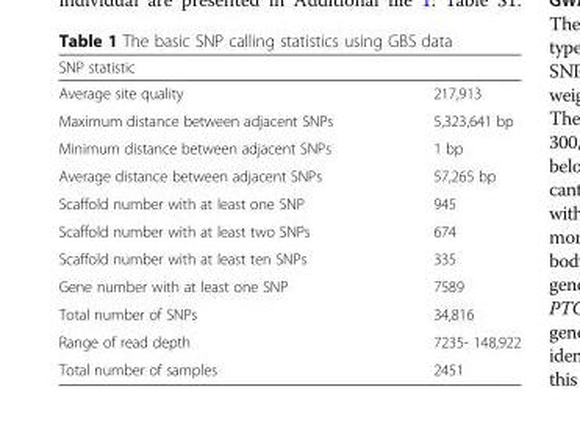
<table><thead><tr><td>SNP statistic</td><td></td></tr></thead><tbody><tr><td>Average site quality</td><td>217,913</td></tr><tr><td>Maximum distance between adjacent SNPs</td><td>5,323,641 bp</td></tr><tr><td>Minimum distance between adjacent SNPs</td><td>1 bp</td></tr><tr><td>Average distance between adjacent SNPs</td><td>57,265 bp</td></tr><tr><td>Scaffold number with at least one SNP</td><td>945</td></tr><tr><td>Scaffold number with at least two SNPs</td><td>674</td></tr><tr><td>Scaffold number with at least ten SNPs</td><td>335</td></tr><tr><td>Gene number with at least one SNP</td><td>7589</td></tr><tr><td>Total number of SNPs</td><td>34,816</td></tr><tr><td>Range of read depth</td><td>7235- 148,922</td></tr><tr><td>Total number of samples</td><td>2451</td></tr></tbody></table>